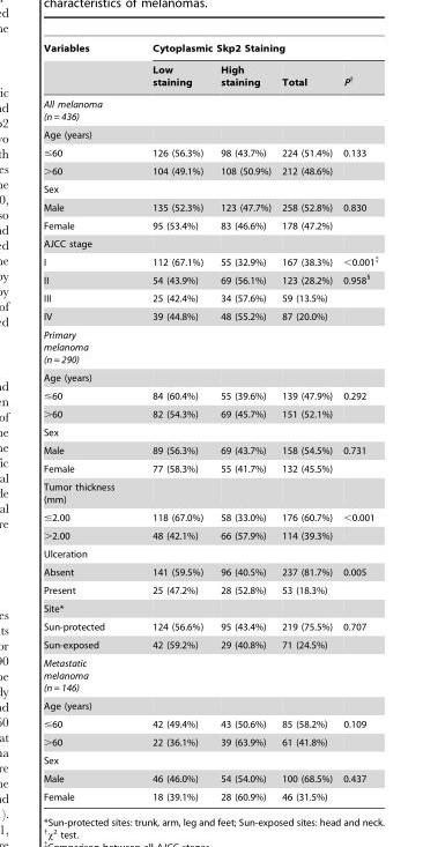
<table><thead><tr><td rowspan="2">Variables</td><td colspan="4">Cytoplasmic Skp2 Staining</td></tr><tr><td>Low staining</td><td>High staining</td><td>Total</td><td>P†</td></tr></thead><tbody><tr><td colspan="5">All melanoma (n = 436)</td></tr><tr><td colspan="5">Age (years)</td></tr><tr><td>≤60</td><td>126 (56.3%)</td><td>98 (43.7%)</td><td>224 (51.4%)</td><td>0.133</td></tr><tr><td>&gt;60</td><td>104 (49.1%)</td><td>108 (50.9%)</td><td>212 (48.6%)</td><td></td></tr><tr><td colspan="5">Sex</td></tr><tr><td>Male</td><td>135 (52.3%)</td><td>123 (47.7%)</td><td>258 (52.8%)</td><td>0.830</td></tr><tr><td>Female</td><td>95 (53.4%)</td><td>83 (46.6%)</td><td>178 (47.2%)</td><td></td></tr><tr><td colspan="5">AJCC stage</td></tr><tr><td>I</td><td>112 (67.1%)</td><td>55 (32.9%)</td><td>167 (38.3%)</td><td>&lt;0.001‡</td></tr><tr><td>II</td><td>54 (43.9%)</td><td>69 (56.1%)</td><td>123 (28.2%)</td><td>0.958§</td></tr><tr><td>III</td><td>25 (42.4%)</td><td>34 (57.6%)</td><td>59 (13.5%)</td><td></td></tr><tr><td>IV</td><td>39 (44.8%)</td><td>48 (55.2%)</td><td>87 (20.0%)</td><td></td></tr><tr><td colspan="5">Primary melanoma (n = 290)</td></tr><tr><td colspan="5">Age (years)</td></tr><tr><td>≤60</td><td>84 (60.4%)</td><td>55 (39.6%)</td><td>139 (47.9%)</td><td>0.292</td></tr><tr><td>&gt;60</td><td>82 (54.3%)</td><td>69 (45.7%)</td><td>151 (52.1%)</td><td></td></tr><tr><td colspan="5">Sex</td></tr><tr><td>Male</td><td>89 (56.3%)</td><td>69 (43.7%)</td><td>158 (54.5%)</td><td>0.731</td></tr><tr><td>Female</td><td>77 (58.3%)</td><td>55 (41.7%)</td><td>132 (45.5%)</td><td></td></tr><tr><td colspan="5">Tumor thickness (mm)</td></tr><tr><td>≤2.00</td><td>118 (67.0%)</td><td>58 (33.0%)</td><td>176 (60.7%)</td><td>&lt;0.001</td></tr><tr><td>&gt;2.00</td><td>48 (42.1%)</td><td>66 (57.9%)</td><td>114 (39.3%)</td><td></td></tr><tr><td colspan="5">Ulceration</td></tr><tr><td>Absent</td><td>141 (59.5%)</td><td>96 (40.5%)</td><td>237 (81.7%)</td><td>0.005</td></tr><tr><td>Present</td><td>25 (47.2%)</td><td>28 (52.8%)</td><td>53 (18.3%)</td><td></td></tr><tr><td colspan="5">Site*</td></tr><tr><td>Sun-protected</td><td>124 (56.6%)</td><td>95 (43.4%)</td><td>219 (75.5%)</td><td>0.707</td></tr><tr><td>Sun-exposed</td><td>42 (59.2%)</td><td>29 (40.8%)</td><td>71 (24.5%)</td><td></td></tr><tr><td colspan="5">Metastatic melanoma (n = 146)</td></tr><tr><td colspan="5">Age (years)</td></tr><tr><td>≤60</td><td>42 (49.4%)</td><td>43 (50.6%)</td><td>85 (58.2%)</td><td>0.109</td></tr><tr><td>&gt;60</td><td>22 (36.1%)</td><td>39 (63.9%)</td><td>61 (41.8%)</td><td></td></tr><tr><td colspan="5">Sex</td></tr><tr><td>Male</td><td>46 (46.0%)</td><td>54 (54.0%)</td><td>100 (68.5%)</td><td>0.437</td></tr><tr><td>Female</td><td>18 (39.1%)</td><td>28 (60.9%)</td><td>46 (31.5%)</td><td></td></tr></tbody></table>